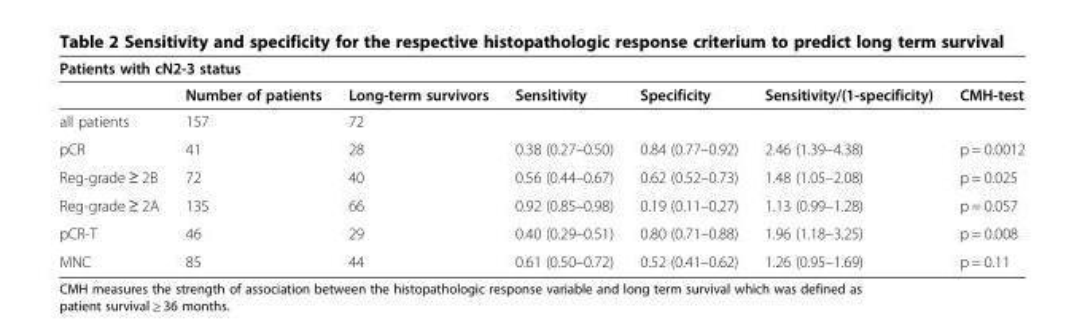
<table><thead><tr><td colspan="7">Patients with cN2-3 status</td></tr><tr><td></td><td>Number of patients</td><td>Long-term survivors</td><td>Sensitivity</td><td>Specificity</td><td>Sensitivity/(1-specificity)</td><td>CMH-test</td></tr></thead><tbody><tr><td>all patients</td><td>157</td><td>72</td><td></td><td></td><td></td><td></td></tr><tr><td>pCR</td><td>41</td><td>28</td><td>0.38 (0.27–0.50)</td><td>0.84 (0.77–0.92)</td><td>2.46 (1.39–4.38)</td><td>p = 0.0012</td></tr><tr><td>Reg-grade ≥ 2B</td><td>72</td><td>40</td><td>0.56 (0.44–0.67)</td><td>0.62 (0.52–0.73)</td><td>1.48 (1.05–2.08)</td><td>p = 0.025</td></tr><tr><td>Reg-grade ≥ 2A</td><td>135</td><td>66</td><td>0.92 (0.85–0.98)</td><td>0.19 (0.11–0.27)</td><td>1.13 (0.99–1.28)</td><td>p = 0.057</td></tr><tr><td>pCR-T</td><td>46</td><td>29</td><td>0.40 (0.29–0.51)</td><td>0.80 (0.71–0.88)</td><td>1.96 (1.18–3.25)</td><td>p = 0.008</td></tr><tr><td>MNC</td><td>85</td><td>44</td><td>0.61 (0.50–0.72)</td><td>0.52 (0.41–0.62)</td><td>1.26 (0.95–1.69)</td><td>p = 0.11</td></tr></tbody></table>